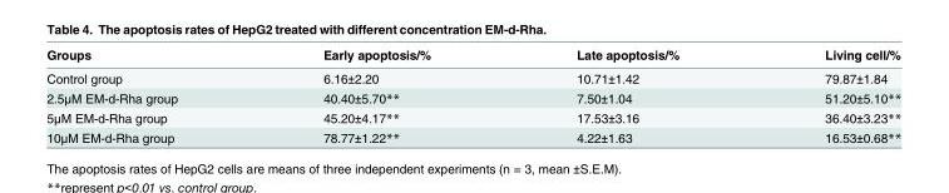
<table><thead><tr><td>Groups</td><td>Early apoptosis/%</td><td>Late apoptosis/%</td><td>Living cell/%</td></tr></thead><tbody><tr><td>Control group</td><td>6.16±2.20</td><td>10.71±1.42</td><td>79.87±1.84</td></tr><tr><td>2.5μM EM-d-Rha group</td><td>40.40±5.70**</td><td>7.50±1.04</td><td>51.20±5.10**</td></tr><tr><td>5μM EM-d-Rha group</td><td>45.20±4.17**</td><td>17.53±3.16</td><td>36.40±3.23**</td></tr><tr><td>10μM EM-d-Rha group</td><td>78.77±1.22**</td><td>4.22±1.63</td><td>16.53±0.68**</td></tr></tbody></table>